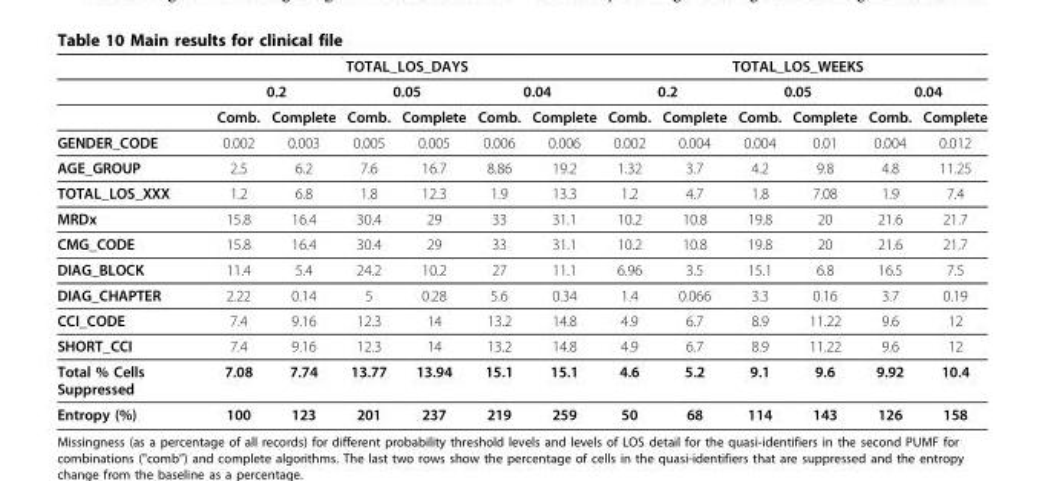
<table><thead><tr><td rowspan="3"></td><td colspan="6">TOTAL_LOS_DAYS</td><td colspan="6">TOTAL_LOS_WEEKS</td></tr><tr><td colspan="2">0.2</td><td colspan="2">0.05</td><td colspan="2">0.04</td><td colspan="2">0.2</td><td colspan="2">0.05</td><td colspan="2">0.04</td></tr><tr><td>Comb.</td><td>Complete</td><td>Comb.</td><td>Complete</td><td>Comb.</td><td>Complete</td><td>Comb.</td><td>Complete</td><td>Comb.</td><td>Complete</td><td>Comb.</td><td>Complete</td></tr></thead><tbody><tr><td>GENDER_CODE</td><td>0.002</td><td>0.003</td><td>0.005</td><td>0.005</td><td>0.006</td><td>0.006</td><td>0.002</td><td>0.004</td><td>0.004</td><td>0.01</td><td>0.004</td><td>0.012</td></tr><tr><td>AGE_GROUP</td><td>2.5</td><td>6.2</td><td>7.6</td><td>16.7</td><td>8.86</td><td>19.2</td><td>1.32</td><td>3.7</td><td>4.2</td><td>9.8</td><td>4.8</td><td>11.25</td></tr><tr><td>TOTAL_LOS_XXX</td><td>1.2</td><td>6.8</td><td>1.8</td><td>12.3</td><td>1.9</td><td>13.3</td><td>1.2</td><td>4.7</td><td>1.8</td><td>7.08</td><td>1.9</td><td>7.4</td></tr><tr><td>MRDx</td><td>15.8</td><td>16.4</td><td>30.4</td><td>29</td><td>33</td><td>31.1</td><td>10.2</td><td>10.8</td><td>19.8</td><td>20</td><td>21.6</td><td>21.7</td></tr><tr><td>CMG_CODE</td><td>15.8</td><td>16.4</td><td>30.4</td><td>29</td><td>33</td><td>31.1</td><td>10.2</td><td>10.8</td><td>19.8</td><td>20</td><td>21.6</td><td>21.7</td></tr><tr><td>DIAG_BLOCK</td><td>11.4</td><td>5.4</td><td>24.2</td><td>10.2</td><td>27</td><td>11.1</td><td>6.96</td><td>3.5</td><td>15.1</td><td>6.8</td><td>16.5</td><td>7.5</td></tr><tr><td>DIAG_CHAPTER</td><td>2.22</td><td>0.14</td><td>5</td><td>0.28</td><td>5.6</td><td>0.34</td><td>1.4</td><td>0.066</td><td>3.3</td><td>0.16</td><td>3.7</td><td>0.19</td></tr><tr><td>CCI_CODE</td><td>7.4</td><td>9.16</td><td>12.3</td><td>14</td><td>13.2</td><td>14.8</td><td>4.9</td><td>6.7</td><td>8.9</td><td>11.22</td><td>9.6</td><td>12</td></tr><tr><td>SHORT_CCI</td><td>7.4</td><td>9.16</td><td>12.3</td><td>14</td><td>13.2</td><td>14.8</td><td>4.9</td><td>6.7</td><td>8.9</td><td>11.22</td><td>9.6</td><td>12</td></tr><tr><td>Total % Cells Suppressed</td><td>7.08</td><td>7.74</td><td>13.77</td><td>13.94</td><td>15.1</td><td>15.1</td><td>4.6</td><td>5.2</td><td>9.1</td><td>9.6</td><td>9.92</td><td>10.4</td></tr><tr><td>Entropy (%)</td><td>100</td><td>123</td><td>201</td><td>237</td><td>219</td><td>259</td><td>50</td><td>68</td><td>114</td><td>143</td><td>126</td><td>158</td></tr></tbody></table>